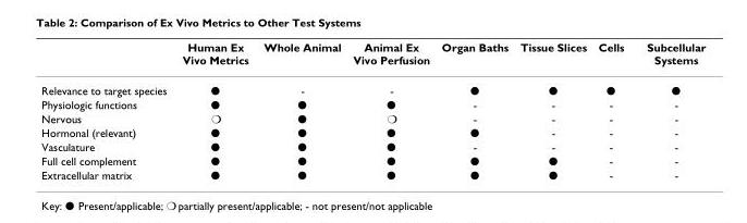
<table><thead><tr><td></td><td>Human Ex Vivo Metrics</td><td>Whole Animal</td><td>Animal Ex Vivo Perfusion</td><td>Organ Baths</td><td>Tissue Slices</td><td>Cells</td><td>Subcellular Systems</td></tr></thead><tbody><tr><td>Relevance to target species</td><td>●</td><td>-</td><td>-</td><td>●</td><td>●</td><td>●</td><td>●</td></tr><tr><td>Physiologic functions</td><td>●</td><td>●</td><td>●</td><td>-</td><td>-</td><td>-</td><td>-</td></tr><tr><td>Nervous</td><td>❍</td><td>●</td><td>❍</td><td>-</td><td>-</td><td>-</td><td>-</td></tr><tr><td>Hormonal (relevant)</td><td>●</td><td>●</td><td>●</td><td>●</td><td>-</td><td>-</td><td>-</td></tr><tr><td>Vasculature</td><td>●</td><td>●</td><td>●</td><td>-</td><td>-</td><td>-</td><td>-</td></tr><tr><td>Full cell complement</td><td>●</td><td>●</td><td>●</td><td>●</td><td>●</td><td>-</td><td>-</td></tr><tr><td>Extracellular matrix</td><td>●</td><td>●</td><td>●</td><td>●</td><td>●</td><td>-</td><td>-</td></tr></tbody></table>